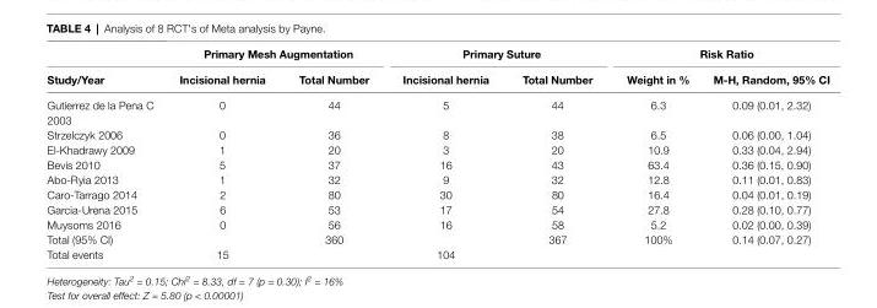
<table><thead><tr><td rowspan="2">study/Year</td><td colspan="2">Primary Mesh Augmentation</td><td colspan="2">Primary suture</td><td colspan="2">Risk Ratio</td></tr><tr><td>incisional hernia</td><td>Total number</td><td>incisional hernia</td><td>Total number</td><td>weight in %</td><td>M-h, Random, 95% Ci</td></tr></thead><tbody><tr><td>Gutierrez de la Pena C 2003</td><td>0</td><td>44</td><td>5</td><td>44</td><td>6.3</td><td>0.09 (0.01, 2.32)</td></tr><tr><td>Strzelczyk 2006</td><td>0</td><td>36</td><td>8</td><td>38</td><td>6.5</td><td>0.06 (0.00, 1.04)</td></tr><tr><td>El-Khadrawy 2009</td><td>1</td><td>20</td><td>3</td><td>20</td><td>10.9</td><td>0.33 (0.04, 2.94)</td></tr><tr><td>Bevis 2010</td><td>5</td><td>37</td><td>16</td><td>43</td><td>63.4</td><td>0.36 (0.15, 0.90)</td></tr><tr><td>Abo-Ryia 2013</td><td>1</td><td>32</td><td>9</td><td>32</td><td>12.8</td><td>0.11 (0.01, 0.83)</td></tr><tr><td>Caro-Tarrago 2014</td><td>2</td><td>80</td><td>30</td><td>80</td><td>16.4</td><td>0.04 (0.01, 0.19)</td></tr><tr><td>Garcia-Urena 2015</td><td>6</td><td>53</td><td>17</td><td>54</td><td>27.8</td><td>0.28 (0.10, 0.77)</td></tr><tr><td>Muysoms 2016</td><td>0</td><td>56</td><td>16</td><td>58</td><td>5.2</td><td>0.02 (0.00, 0.39)</td></tr><tr><td>Total (95% CI)</td><td></td><td>360</td><td></td><td>367</td><td>100%</td><td>0.14 (0.07, 0.27)</td></tr><tr><td>Total events</td><td>15</td><td></td><td>104</td><td></td><td></td><td></td></tr></tbody></table>